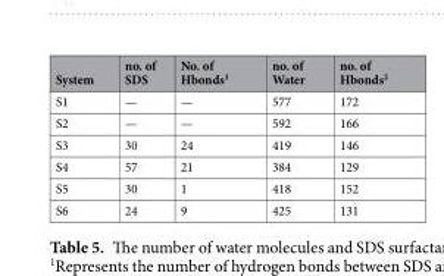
<table><thead><tr><td>System</td><td>no. of SDS</td><td>No. of Hbonds<sup>1</sup></td><td>no. of Water</td><td>no. of Hbonds<sup>2</sup></td></tr></thead><tbody><tr><td>S1</td><td>—</td><td>—</td><td>577</td><td>172</td></tr><tr><td>S2</td><td>—</td><td>—</td><td>592</td><td>166</td></tr><tr><td>S3</td><td>30</td><td>24</td><td>419</td><td>146</td></tr><tr><td>S4</td><td>57</td><td>21</td><td>384</td><td>129</td></tr><tr><td>S5</td><td>30</td><td>1</td><td>418</td><td>152</td></tr><tr><td>S6</td><td>24</td><td>9</td><td>425</td><td>131</td></tr></tbody></table>